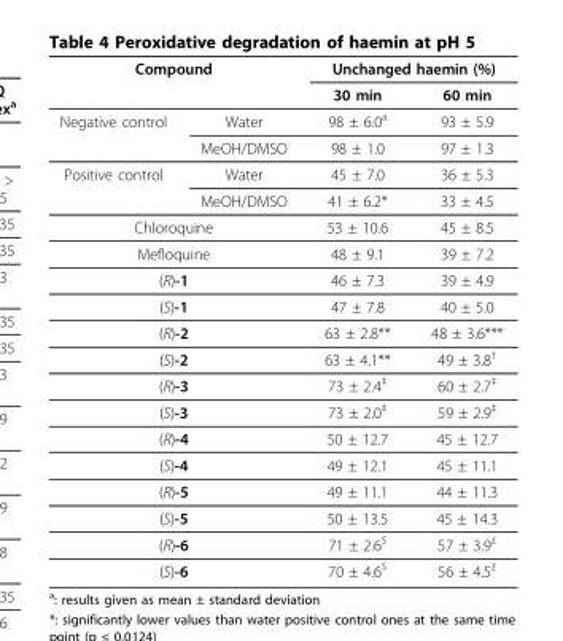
<table><thead><tr><td colspan="2">Compound</td><td colspan="2">Unchanged haemin (%)</td></tr><tr><td></td><td></td><td>30 min</td><td>60 min</td></tr></thead><tbody><tr><td rowspan="2">Negative control</td><td>Water</td><td>98 ± 6.0a</td><td>93 ± 5.9</td></tr><tr><td>MeOH/DMSO</td><td>98 ± 1.0</td><td>97 ± 1.3</td></tr><tr><td rowspan="2">Positive control</td><td>Water</td><td>45 ± 7.0</td><td>36 ± 5.3</td></tr><tr><td>MeOH/DMSO</td><td>41 ± 6.2*</td><td>33 ± 4.5</td></tr><tr><td colspan="2">Chloroquine</td><td>53 ± 10.6</td><td>45 ± 8.5</td></tr><tr><td colspan="2">Mefloquine</td><td>48 ± 9.1</td><td>39 ± 7.2</td></tr><tr><td colspan="2">(R)-1</td><td>46 ± 7.3</td><td>39 ± 4.9</td></tr><tr><td colspan="2">(S)-1</td><td>47 ± 7.8</td><td>40 ± 5.0</td></tr><tr><td colspan="2">(R)-2</td><td>63 ± 2.8**</td><td>48 ± 3.6***</td></tr><tr><td colspan="2">(S)-2</td><td>63 ± 4.1**</td><td>49 ± 3.8†</td></tr><tr><td colspan="2">(R)-3</td><td>73 ± 2.4‡</td><td>60 ± 2.7‡</td></tr><tr><td colspan="2">(S)-3</td><td>73 ± 2.0‡</td><td>59 ± 2.9‡</td></tr><tr><td colspan="2">(R)-4</td><td>50 ± 12.7</td><td>45 ± 12.7</td></tr><tr><td colspan="2">(S)-4</td><td>49 ± 12.1</td><td>45 ± 11.1</td></tr><tr><td colspan="2">(R)-5</td><td>49 ± 11.1</td><td>44 ± 11.3</td></tr><tr><td colspan="2">(S)-5</td><td>50 ± 13.5</td><td>45 ± 14.3</td></tr><tr><td colspan="2">(R)-6</td><td>71 ± 2.6$</td><td>57 ± 3.9£</td></tr><tr><td colspan="2">(S)-6</td><td>70 ± 4.6$</td><td>56 ± 4.5£</td></tr></tbody></table>